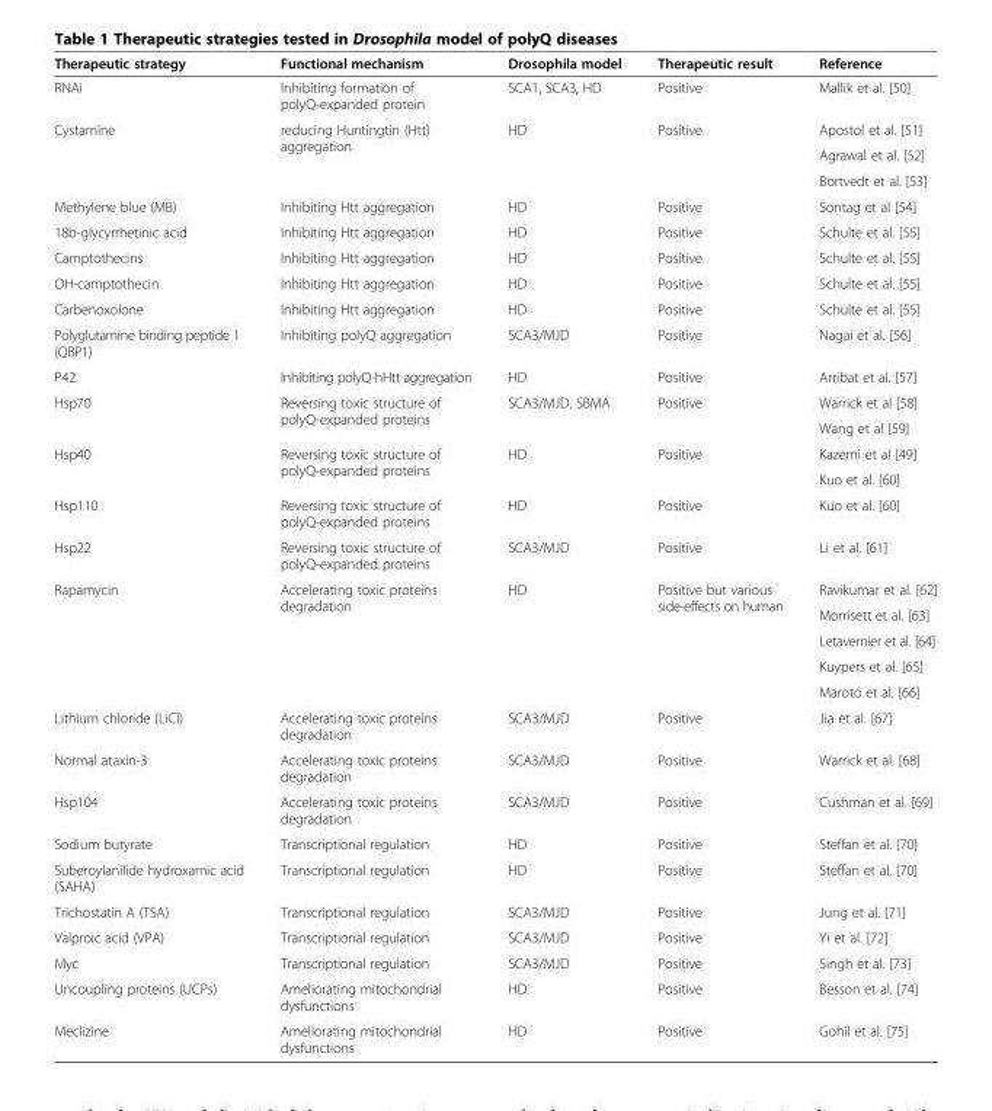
<table><thead><tr><td>Therapeutic strategy</td><td>Functional mechanism</td><td>Drosophila model</td><td>Therapeutic result</td><td>Reference</td></tr></thead><tbody><tr><td>RNAi</td><td>Inhibiting formation of polyQ-expanded protein</td><td>SCA1, SCA3, HD</td><td>Positive</td><td>Mallik et al. [50]</td></tr><tr><td rowspan="3">Cystamine</td><td rowspan="3">reducing Huntingtin (Htt) aggregation</td><td rowspan="3">HD</td><td rowspan="3">Positive</td><td>Apostol et al. [51]</td></tr><tr><td>Agrawal et al. [52]</td></tr><tr><td>Bortvedt et al. [53]</td></tr><tr><td>Methylene blue (MB)</td><td>Inhibiting Htt aggregation</td><td>HD</td><td>Positive</td><td>Sontag et al [54]</td></tr><tr><td>18b-glycyrrhetinic acid</td><td>Inhibiting Htt aggregation</td><td>HD</td><td>Positive</td><td>Schulte et al. [55]</td></tr><tr><td>Camptothecins</td><td>Inhibiting Htt aggregation</td><td>HD</td><td>Positive</td><td>Schulte et al. [55]</td></tr><tr><td>OH-camptothecin</td><td>Inhibiting Htt aggregation</td><td>HD</td><td>Positive</td><td>Schulte et al. [55]</td></tr><tr><td>Carbenoxolone</td><td>Inhibiting Htt aggregation</td><td>HD</td><td>Positive</td><td>Schulte et al. [55]</td></tr><tr><td>Polyglutamine binding peptide 1 (QBP1)</td><td>Inhibiting polyQ aggregation</td><td>SCA3/MJD</td><td>Positive</td><td>Nagai et al. [56]</td></tr><tr><td>P42</td><td>Inhibiting polyQ-hHtt aggregation</td><td>HD</td><td>Positive</td><td>Arribat et al. [57]</td></tr><tr><td rowspan="2">Hsp70</td><td rowspan="2">Reversing toxic structure of polyQ-expanded proteins</td><td rowspan="2">SCA3/MJD, SBMA</td><td rowspan="2">Positive</td><td>Warrick et al [58]</td></tr><tr><td>Wang et al [59]</td></tr><tr><td rowspan="2">Hsp40</td><td rowspan="2">Reversing toxic structure of polyQ-expanded proteins</td><td rowspan="2">HD</td><td rowspan="2">Positive</td><td>Kazemi et al [49]</td></tr><tr><td>Kuo et al. [60]</td></tr><tr><td>Hsp110</td><td>Reversing toxic structure of polyQ-expanded proteins</td><td>HD</td><td>Positive</td><td>Kuo et al. [60]</td></tr><tr><td>Hsp22</td><td>Reversing toxic structure of polyQ-expanded proteins</td><td>SCA3/MJD</td><td>Positive</td><td>Li et al. [61]</td></tr><tr><td rowspan="5">Rapamycin</td><td rowspan="5">Accelerating toxic proteins degradation</td><td rowspan="5">HD</td><td rowspan="5">Positive but various side-effects on human</td><td>Ravikumar et al. [62]</td></tr><tr><td>Morrisett et al. [63]</td></tr><tr><td>Letavernier et al. [64]</td></tr><tr><td>Kuypers et al. [65]</td></tr><tr><td>Maroto et al. [66]</td></tr><tr><td>Lithium chloride (LiCl)</td><td>Accelerating toxic proteins degradation</td><td>SCA3/MJD</td><td>Positive</td><td>Jia et al. [67]</td></tr><tr><td>Normal ataxin-3</td><td>Accelerating toxic proteins degradation</td><td>SCA3/MJD</td><td>Positive</td><td>Warrick et al. [68]</td></tr><tr><td>Hsp104</td><td>Accelerating toxic proteins degradation</td><td>SCA3/MJD</td><td>Positive</td><td>Cushman et al. [69]</td></tr><tr><td>Sodium butyrate</td><td>Transcriptional regulation</td><td>HD</td><td>Positive</td><td>Steffan et al. [70]</td></tr><tr><td>Suberoylanilide hydroxamic acid (SAHA)</td><td>Transcriptional regulation</td><td>HD</td><td>Positive</td><td>Steffan et al. [70]</td></tr><tr><td>Trichostatin A (TSA)</td><td>Transcriptional regulation</td><td>SCA3/MJD</td><td>Positive</td><td>Jung et al. [71]</td></tr><tr><td>Valproic acid (VPA)</td><td>Transcriptional regulation</td><td>SCA3/MJD</td><td>Positive</td><td>Yi et al. [72]</td></tr><tr><td>Myc</td><td>Transcriptional regulation</td><td>SCA3/MJD</td><td>Positive</td><td>Singh et al. [73]</td></tr><tr><td>Uncoupling proteins (UCPs)</td><td>Ameliorating mitochondrial dysfunctions</td><td>HD</td><td>Positive</td><td>Besson et al. [74]</td></tr><tr><td>Meclizine</td><td>Ameliorating mitochondrial dysfunctions</td><td>HD</td><td>Positive</td><td>Gohil et al. [75]</td></tr></tbody></table>